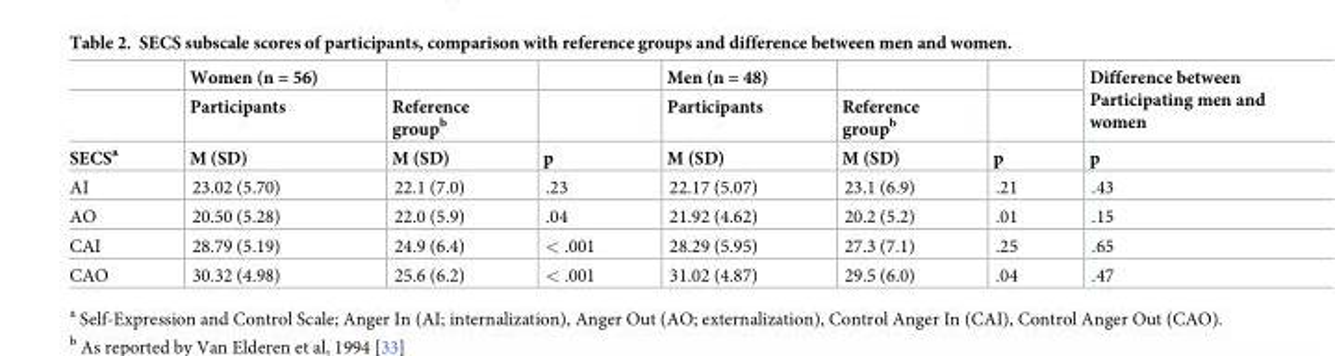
<table><thead><tr><td rowspan="3">SECS<sup>a</sup></td><td rowspan="3">Women (n = 56) Participants M (SD)</td><td rowspan="3">Reference group<sup>b</sup> M (SD)</td><td rowspan="3">p</td><td rowspan="3">Men (n = 48) Participants M (SD)</td><td rowspan="3">Reference group<sup>b</sup> M (SD)</td><td rowspan="3">p</td><td rowspan="3">Difference between Participating men and women p</td></tr><tr></tr><tr></tr></thead><tbody><tr><td>AI</td><td>23.02 (5.70)</td><td>22.1 (7.0)</td><td>.23</td><td>22.17 (5.07)</td><td>23.1 (6.9)</td><td>.21</td><td>.43</td></tr><tr><td>AO</td><td>20.50 (5.28)</td><td>22.0 (5.9)</td><td>.04</td><td>21.92 (4.62)</td><td>20.2 (5.2)</td><td>.01</td><td>.15</td></tr><tr><td>CAI</td><td>28.79 (5.19)</td><td>24.9 (6.4)</td><td>&lt; .001</td><td>28.29 (5.95)</td><td>27.3 (7.1)</td><td>.25</td><td>.65</td></tr><tr><td>CAO</td><td>30.32 (4.98)</td><td>25.6 (6.2)</td><td>&lt; .001</td><td>31.02 (4.87)</td><td>29.5 (6.0)</td><td>.04</td><td>.47</td></tr></tbody></table>